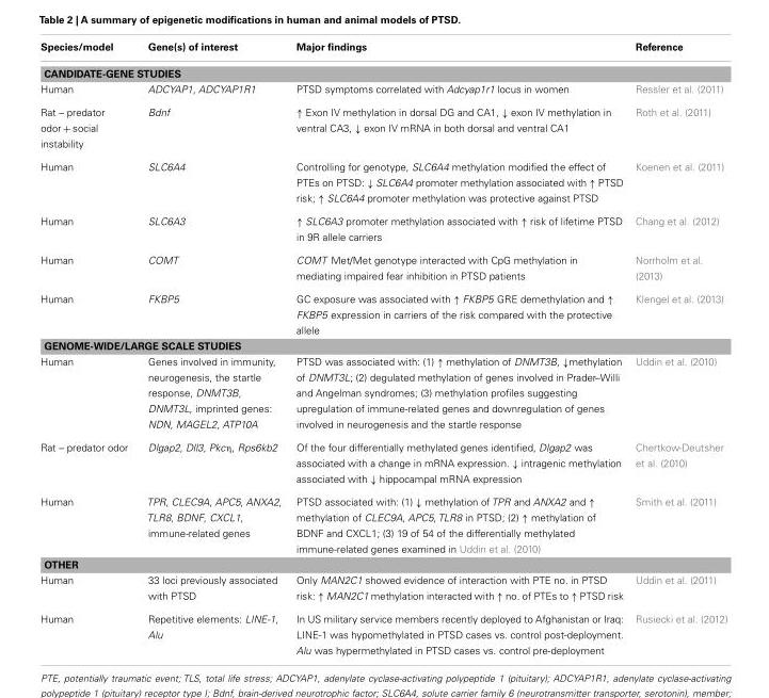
<table><thead><tr><td>Species/model</td><td>Gene(s) of interest</td><td>Major findings</td><td>Reference</td></tr></thead><tbody><tr><td colspan="4">CANDIDATE-GENE STUDIES</td></tr><tr><td>Human</td><td>ADCYAP1, ADCYAP1R1</td><td>PTSD symptoms correlated with Adcyap1r1 locus in women</td><td>Ressler et al. (2011)</td></tr><tr><td>Rat – predator odor + social instability</td><td>Bdnf</td><td>↑ Exon IV methylation in dorsal DG and CA1, ↓ exon IV methylation in ventral CA3, ↓ exon IV mRNA in both dorsal and ventral CA1</td><td>Roth et al. (2011)</td></tr><tr><td>Human</td><td>SLC6A4</td><td>Controlling for genotype, SLC6A4 methylation modified the effect of PTEs on PTSD: ↓ SLC6A4 promoter methylation associated with ↑ PTSD risk; ↑ SLC6A4 promoter methylation was protective against PTSD</td><td>Koenen et al. (2011)</td></tr><tr><td>Human</td><td>SLC6A3</td><td>↑ SLC6A3 promoter methylation associated with ↑ risk of lifetime PTSD in 9R allele carriers</td><td>Chang et al. (2012)</td></tr><tr><td>Human</td><td>COMT</td><td>COMT Met/Met genotype interacted with CpG methylation in mediating impaired fear inhibition in PTSD patients</td><td>Norrholm et al. (2013)</td></tr><tr><td>Human</td><td>FKBP5</td><td>GC exposure was associated with ↑ FKBP5 GRE demethylation and ↑ FKBP5 expression in carriers of the risk compared with the protective allele</td><td>Klengel et al. (2013)</td></tr><tr><td colspan="4">GENOME-WIDE/LARGE SCALE STUDIES</td></tr><tr><td>Human</td><td>Genes involved in immunity, neurogenesis, the startle response, DNMT3B, DNMT3L, imprinted genes: NDN, MAGEL2, ATP10A</td><td>PTSD was associated with: (1) ↑ methylation of DNMT3B, ↓methylation of DNMT3L; (2) degulated methylation of genes involved in Prader–Willi and Angelman syndromes; (3) methylation profiles suggesting upregulation of immune-related genes and downregulation of genes involved in neurogenesis and the startle response</td><td>Uddin et al. (2010)</td></tr><tr><td>Rat – predator odor</td><td>Dlgap2, Dll3, Pkcη, Rps6kb2</td><td>Of the four differentially methylated genes identified, Dlgap2 was associated with a change in mRNA expression. ↓ intragenic methylation associated with ↓ hippocampal mRNA expression</td><td>Chertkow-Deutsher et al. (2010)</td></tr><tr><td>Human</td><td>TPR, CLEC9A, APC5, ANXA2, TLR8, BDNF, CXCL1, immune-related genes</td><td>PTSD associated with: (1) ↓ methylation of TPR and ANXA2 and ↑ methylation of CLEC9A, APC5, TLR8 in PTSD; (2) ↑ methylation of BDNF and CXCL1; (3) 19 of 54 of the differentially methylated immune-related genes examined in Uddin et al. (2010)</td><td>Smith et al. (2011)</td></tr><tr><td colspan="4">OTHER</td></tr><tr><td>Human</td><td>33 loci previously associated with PTSD</td><td>Only MAN2C1 showed evidence of interaction with PTE no. in PTSD risk: ↑ MAN2C1 methylation interacted with ↑ no. of PTEs to ↑ PTSD risk</td><td>Uddin et al. (2011)</td></tr><tr><td>Human</td><td>Repetitive elements: LINE-1, Alu</td><td>In US military service members recently deployed to Afghanistan or Iraq: LINE-1 was hypomethylated in PTSD cases vs. control post-deployment. Alu was hypermethylated in PTSD cases vs. control pre-deployment</td><td>Rusiecki et al. (2012)</td></tr></tbody></table>